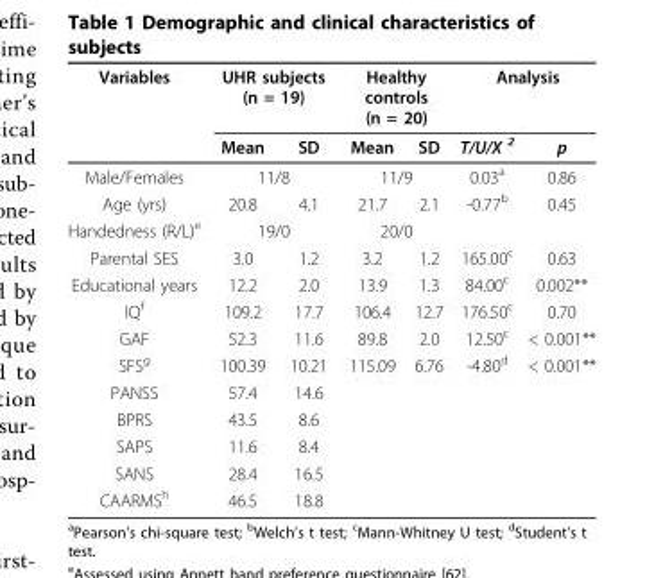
<table><thead><tr><td rowspan="2">Variables</td><td colspan="2">UHR subjects (n = 19)</td><td colspan="2">Healthy controls (n = 20)</td><td colspan="2">Analysis</td></tr><tr><td>Mean</td><td>SD</td><td>Mean</td><td>SD</td><td>T/U/X <sup>2</sup></td><td>p</td></tr></thead><tbody><tr><td>Male/Females</td><td colspan="2">11/8</td><td colspan="2">11/9</td><td>0.03<sup>a</sup></td><td>0.86</td></tr><tr><td>Age (yrs)</td><td>20.8</td><td>4.1</td><td>21.7</td><td>2.1</td><td>-0.77<sup>b</sup></td><td>0.45</td></tr><tr><td>Handedness (R/L)<sup>e</sup></td><td colspan="2">19/0</td><td colspan="2">20/0</td><td></td><td></td></tr><tr><td>Parental SES</td><td>3.0</td><td>1.2</td><td>3.2</td><td>1.2</td><td>165.00<sup>c</sup></td><td>0.63</td></tr><tr><td>Educational years</td><td>12.2</td><td>2.0</td><td>13.9</td><td>1.3</td><td>84.00<sup>c</sup></td><td>0.002**</td></tr><tr><td>IQ<sup>f</sup></td><td>109.2</td><td>17.7</td><td>106.4</td><td>12.7</td><td>176.50<sup>c</sup></td><td>0.70</td></tr><tr><td>GAF</td><td>52.3</td><td>11.6</td><td>89.8</td><td>2.0</td><td>12.50<sup>c</sup></td><td>&lt; 0.001**</td></tr><tr><td>SFS<sup>g</sup></td><td>100.39</td><td>10.21</td><td>115.09</td><td>6.76</td><td>-4.80<sup>d</sup></td><td>&lt; 0.001**</td></tr><tr><td>PANSS</td><td>57.4</td><td>14.6</td><td></td><td></td><td></td><td></td></tr><tr><td>BPRS</td><td>43.5</td><td>8.6</td><td></td><td></td><td></td><td></td></tr><tr><td>SAPS</td><td>11.6</td><td>8.4</td><td></td><td></td><td></td><td></td></tr><tr><td>SANS</td><td>28.4</td><td>16.5</td><td></td><td></td><td></td><td></td></tr><tr><td>CAARMS<sup>h</sup></td><td>46.5</td><td>18.8</td><td></td><td></td><td></td><td></td></tr></tbody></table>